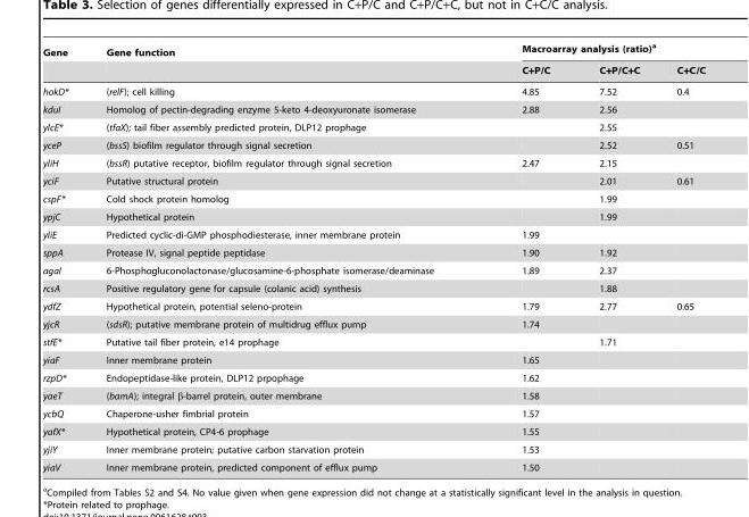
<table><thead><tr><td rowspan="2">Gene</td><td rowspan="2">Gene function</td><td colspan="3">Macroarray analysis (ratio)<sup>a</sup></td></tr><tr><td>C+P/C</td><td>C+P/C+C</td><td>C+C/C</td></tr></thead><tbody><tr><td>hokD*</td><td>(relF); cell killing</td><td>4.85</td><td>7.52</td><td>0.4</td></tr><tr><td>kduI</td><td>Homolog of pectin-degrading enzyme 5-keto 4-deoxyuronate isomerase</td><td>2.88</td><td>2.56</td><td></td></tr><tr><td>ylcE*</td><td>(tfaX); tail fiber assembly predicted protein, DLP12 prophage</td><td></td><td>2.55</td><td></td></tr><tr><td>yceP</td><td>(bssS) biofilm regulator through signal secretion</td><td></td><td>2.52</td><td>0.51</td></tr><tr><td>yliH</td><td>(bssR) putative receptor, biofilm regulator through signal secretion</td><td>2.47</td><td>2.15</td><td></td></tr><tr><td>yciF</td><td>Putative structural protein</td><td></td><td>2.01</td><td>0.61</td></tr><tr><td>cspF*</td><td>Cold shock protein homolog</td><td></td><td>1.99</td><td></td></tr><tr><td>ypjC</td><td>Hypothetical protein</td><td></td><td>1.99</td><td></td></tr><tr><td>yliE</td><td>Predicted cyclic-di-GMP phosphodiesterase, inner membrane protein</td><td>1.99</td><td></td><td></td></tr><tr><td>sppA</td><td>Protease IV, signal peptide peptidase</td><td>1.90</td><td>1.92</td><td></td></tr><tr><td>agaI</td><td>6-Phosphogluconolactonase/glucosamine-6-phosphate isomerase/deaminase</td><td>1.89</td><td>2.37</td><td></td></tr><tr><td>rcsA</td><td>Positive regulatory gene for capsule (colanic acid) synthesis</td><td></td><td>1.88</td><td></td></tr><tr><td>ydfZ</td><td>Hypothetical protein, potential seleno-protein</td><td>1.79</td><td>2.77</td><td>0.65</td></tr><tr><td>yjcR</td><td>(sdsR); putative membrane protein of multidrug efflux pump</td><td>1.74</td><td></td><td></td></tr><tr><td>stfE*</td><td>Putative tail fiber protein, e14 prophage</td><td></td><td>1.71</td><td></td></tr><tr><td>yiaF</td><td>Inner membrane protein</td><td>1.65</td><td></td><td></td></tr><tr><td>rzpD*</td><td>Endopeptidase-like protein, DLP12 prpophage</td><td>1.62</td><td></td><td></td></tr><tr><td>yaeT</td><td>(bamA); integral β-barrel protein, outer membrane</td><td>1.58</td><td></td><td></td></tr><tr><td>ycbQ</td><td>Chaperone-usher fimbrial protein</td><td>1.57</td><td></td><td></td></tr><tr><td>yafX*</td><td>Hypothetical protein, CP4-6 prophage</td><td>1.55</td><td></td><td></td></tr><tr><td>yjiY</td><td>Inner membrane protein; putative carbon starvation protein</td><td>1.53</td><td></td><td></td></tr><tr><td>yiaV</td><td>Inner membrane protein, predicted component of efflux pump</td><td>1.50</td><td></td><td></td></tr></tbody></table>